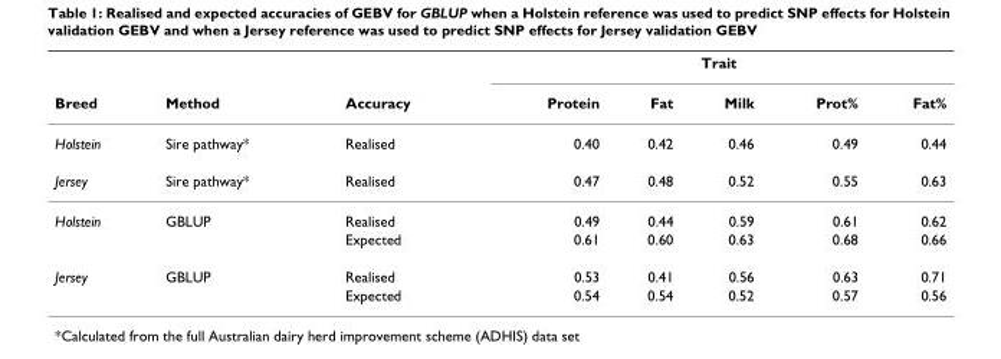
<table><thead><tr><td rowspan="2">Breed</td><td rowspan="2">Method</td><td rowspan="2">Accuracy</td><td colspan="5">Trait</td></tr><tr><td>Protein</td><td>Fat</td><td>Milk</td><td>Prot%</td><td>Fat%</td></tr></thead><tbody><tr><td>Holstein</td><td>Sire pathway*</td><td>Realised</td><td>0.40</td><td>0.42</td><td>0.46</td><td>0.49</td><td>0.44</td></tr><tr><td>Jersey</td><td>Sire pathway*</td><td>Realised</td><td>0.47</td><td>0.48</td><td>0.52</td><td>0.55</td><td>0.63</td></tr><tr><td rowspan="2">Holstein</td><td>GBLUP</td><td>Realised</td><td>0.49</td><td>0.44</td><td>0.59</td><td>0.61</td><td>0.62</td></tr><tr><td></td><td>Expected</td><td>0.61</td><td>0.60</td><td>0.63</td><td>0.68</td><td>0.66</td></tr><tr><td rowspan="2">Jersey</td><td>GBLUP</td><td>Realised</td><td>0.53</td><td>0.41</td><td>0.56</td><td>0.63</td><td>0.71</td></tr><tr><td></td><td>Expected</td><td>0.54</td><td>0.54</td><td>0.52</td><td>0.57</td><td>0.56</td></tr></tbody></table>